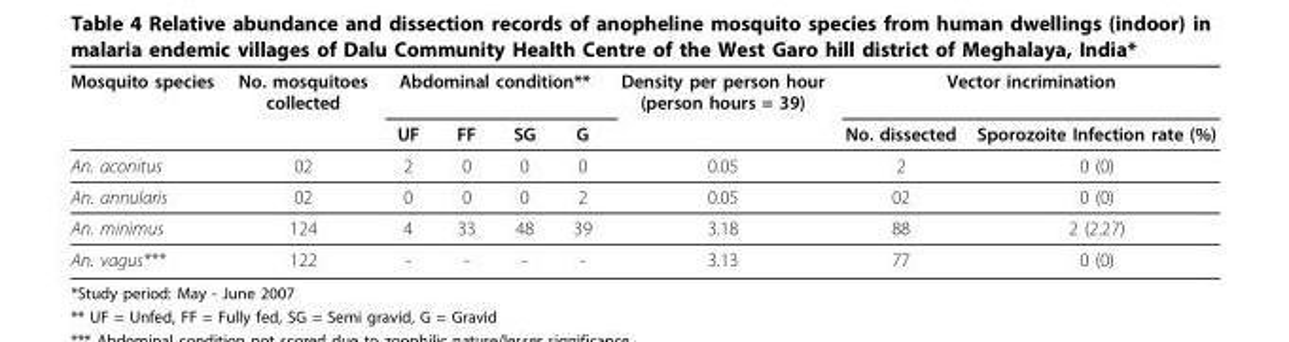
<table><thead><tr><td rowspan="2">Mosquito species</td><td rowspan="2">No. mosquitoes collected</td><td colspan="4">Abdominal condition**</td><td rowspan="2">Density per person hour (person hours = 39)</td><td colspan="2">Vector incrimination</td></tr><tr><td>UF</td><td>FF</td><td>SG</td><td>G</td><td>No. dissected</td><td>Sporozoite Infection rate (%)</td></tr></thead><tbody><tr><td>An. aconitus</td><td>02</td><td>2</td><td>0</td><td>0</td><td>0</td><td>0.05</td><td>2</td><td>0 (0)</td></tr><tr><td>An. annularis</td><td>02</td><td>0</td><td>0</td><td>0</td><td>2</td><td>0.05</td><td>02</td><td>0 (0)</td></tr><tr><td>An. minimus</td><td>124</td><td>4</td><td>33</td><td>48</td><td>39</td><td>3.18</td><td>88</td><td>2 (2.27)</td></tr><tr><td>An. vagus***</td><td>122</td><td>-</td><td>-</td><td>-</td><td>-</td><td>3.13</td><td>77</td><td>0 (0)</td></tr></tbody></table>